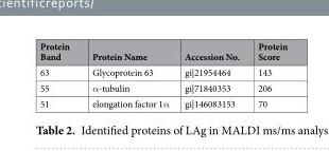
<table><thead><tr><td>Protein Band</td><td>Protein Name</td><td>Accession No.</td><td>Protein Score</td></tr></thead><tbody><tr><td>63</td><td>Glycoprotein 63</td><td>gi|21954464</td><td>143</td></tr><tr><td>55</td><td>α-tubulin</td><td>gi|71840353</td><td>206</td></tr><tr><td>51</td><td>elongation factor 1α</td><td>gi|146083153</td><td>70</td></tr></tbody></table>